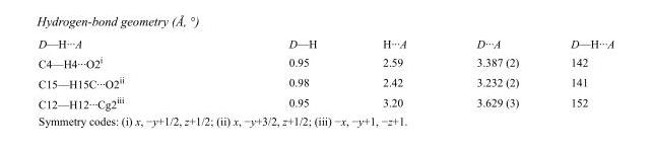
<table><tbody><tr><td>D—H···A</td><td>D—H</td><td>H···A</td><td>D···A</td><td>D—H···A</td></tr><tr><td>C4—H4···O2<sup>i</sup></td><td>0.95</td><td>2.59</td><td>3.387 (2)</td><td>142</td></tr><tr><td>C15—H15C···O2<sup>ii</sup></td><td>0.98</td><td>2.42</td><td>3.232 (2)</td><td>141</td></tr><tr><td>C12—H12···Cg2<sup>iii</sup></td><td>0.95</td><td>3.20</td><td>3.629 (3)</td><td>152</td></tr></tbody></table>